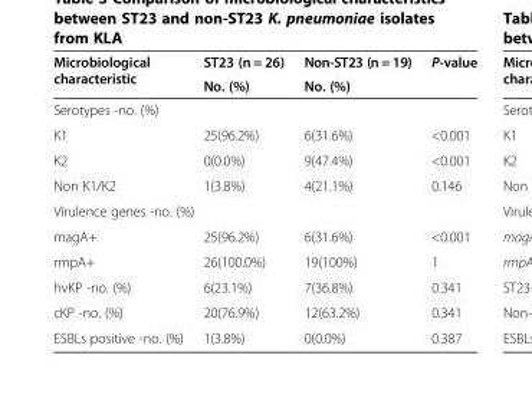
<table><thead><tr><td rowspan="2">Microbiological characteristic</td><td rowspan="2">ST23 (n = 26) No. (%)</td><td rowspan="2">Non-ST23 (n = 19) No. (%)</td><td rowspan="2">P-value</td></tr><tr></tr></thead><tbody><tr><td colspan="4">Serotypes -no. (%)</td></tr><tr><td>K1</td><td>25(96.2%)</td><td>6(31.6%)</td><td>&lt;0.001</td></tr><tr><td>K2</td><td>0(0.0%)</td><td>9(47.4%)</td><td>&lt;0.001</td></tr><tr><td>Non K1/K2</td><td>1(3.8%)</td><td>4(21.1%)</td><td>0.146</td></tr><tr><td colspan="4">Virulence genes -no. (%)</td></tr><tr><td>magA+</td><td>25(96.2%)</td><td>6(31.6%)</td><td>&lt;0.001</td></tr><tr><td>rmpA+</td><td>26(100.0%)</td><td>19(100%)</td><td>1</td></tr><tr><td>hvKP -no. (%)</td><td>6(23.1%)</td><td>7(36.8%)</td><td>0.341</td></tr><tr><td>cKP -no. (%)</td><td>20(76.9%)</td><td>12(63.2%)</td><td>0.341</td></tr><tr><td>ESBLs positive -no. (%)</td><td>1(3.8%)</td><td>0(0.0%)</td><td>0.387</td></tr></tbody></table>